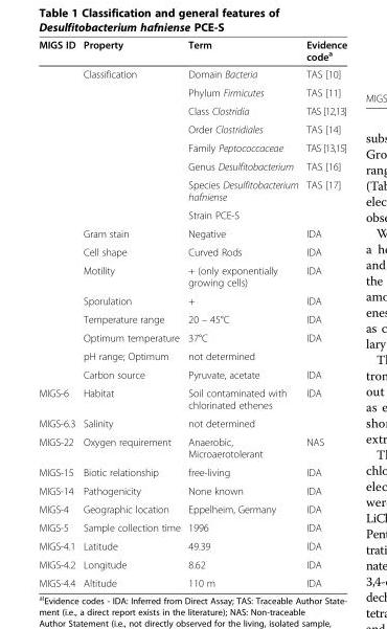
<table><thead><tr><td>MIGS ID</td><td>Property</td><td>Term</td><td>Evidence code<sup>a</sup></td></tr></thead><tbody><tr><td rowspan="6"></td><td rowspan="6">Classification</td><td>Domain Bacteria</td><td>TAS [10]</td></tr><tr><td>Phylum Firmicutes</td><td>TAS [11]</td></tr><tr><td>Class Clostridia</td><td>TAS [12,13]</td></tr><tr><td>Order Clostridiales</td><td>TAS [14]</td></tr><tr><td>Family Peptococcaceae</td><td>TAS [13,15]</td></tr><tr><td>Genus Desulfitobacterium</td><td>TAS [16]</td></tr><tr><td rowspan="8"></td><td></td><td>Species Desulfitobacterium hafniense</td><td>TAS [17]</td></tr><tr><td></td><td>Strain PCE-S</td><td></td></tr><tr><td>Gram stain</td><td>Negative</td><td>IDA</td></tr><tr><td>Cell shape</td><td>Curved Rods</td><td>IDA</td></tr><tr><td>Motility</td><td>+ (only exponentially growing cells)</td><td>IDA</td></tr><tr><td>Sporulation</td><td>+</td><td>IDA</td></tr><tr><td>Temperature range</td><td>20 – 45°C</td><td>IDA</td></tr><tr><td>Optimum temperature</td><td>37°C</td><td>IDA</td></tr><tr><td></td><td>pH range; Optimum</td><td>not determined</td><td></td></tr><tr><td></td><td>Carbon source</td><td>Pyruvate, acetate</td><td>IDA</td></tr><tr><td>MIGS-6</td><td>Habitat</td><td>Soil contaminated with chlorinated ethenes</td><td>IDA</td></tr><tr><td>MIGS-6.3</td><td>Salinity</td><td>not determined</td><td></td></tr><tr><td>MIGS-22</td><td>Oxygen requirement</td><td>Anaerobic, Microaerotolerant</td><td>NAS</td></tr><tr><td>MIGS-15</td><td>Biotic relationship</td><td>free-living</td><td>IDA</td></tr><tr><td>MIGS-14</td><td>Pathogenicity</td><td>None known</td><td>IDA</td></tr><tr><td>MIGS-4</td><td>Geographic location</td><td>Eppelheim, Germany</td><td>IDA</td></tr><tr><td>MIGS-5</td><td>Sample collection time</td><td>1996</td><td>IDA</td></tr><tr><td>MIGS-4.1</td><td>Latitude</td><td>49.39</td><td>IDA</td></tr><tr><td>MIGS-4.2</td><td>Longitude</td><td>8.62</td><td>IDA</td></tr><tr><td>MIGS-4.4</td><td>Altitude</td><td>110 m</td><td>IDA</td></tr></tbody></table>